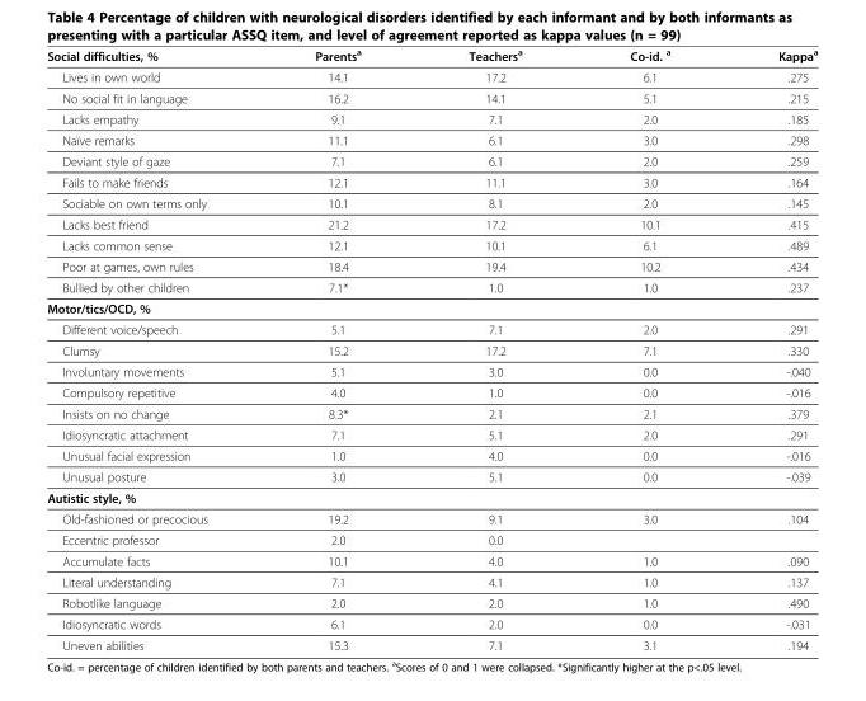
<table><thead><tr><td>Social difficulties, %</td><td>Parents<sup>a</sup></td><td>Teachers<sup>a</sup></td><td>Co-id. <sup>a</sup></td><td>Kappa<sup>a</sup></td></tr></thead><tbody><tr><td>Lives in own world</td><td>14.1</td><td>17.2</td><td>6.1</td><td>.275</td></tr><tr><td>No social fit in language</td><td>16.2</td><td>14.1</td><td>5.1</td><td>.215</td></tr><tr><td>Lacks empathy</td><td>9.1</td><td>7.1</td><td>2.0</td><td>.185</td></tr><tr><td>Naïve remarks</td><td>11.1</td><td>6.1</td><td>3.0</td><td>.298</td></tr><tr><td>Deviant style of gaze</td><td>7.1</td><td>6.1</td><td>2.0</td><td>.259</td></tr><tr><td>Fails to make friends</td><td>12.1</td><td>11.1</td><td>3.0</td><td>.164</td></tr><tr><td>Sociable on own terms only</td><td>10.1</td><td>8.1</td><td>2.0</td><td>.145</td></tr><tr><td>Lacks best friend</td><td>21.2</td><td>17.2</td><td>10.1</td><td>.415</td></tr><tr><td>Lacks common sense</td><td>12.1</td><td>10.1</td><td>6.1</td><td>.489</td></tr><tr><td>Poor at games, own rules</td><td>18.4</td><td>19.4</td><td>10.2</td><td>.434</td></tr><tr><td>Bullied by other children</td><td>7.1*</td><td>1.0</td><td>1.0</td><td>.237</td></tr><tr><td colspan="5">Motor/tics/OCD, %</td></tr><tr><td>Different voice/speech</td><td>5.1</td><td>7.1</td><td>2.0</td><td>.291</td></tr><tr><td>Clumsy</td><td>15.2</td><td>17.2</td><td>7.1</td><td>.330</td></tr><tr><td>Involuntary movements</td><td>5.1</td><td>3.0</td><td>0.0</td><td>-.040</td></tr><tr><td>Compulsory repetitive</td><td>4.0</td><td>1.0</td><td>0.0</td><td>-.016</td></tr><tr><td>Insists on no change</td><td>8.3*</td><td>2.1</td><td>2.1</td><td>.379</td></tr><tr><td>Idiosyncratic attachment</td><td>7.1</td><td>5.1</td><td>2.0</td><td>.291</td></tr><tr><td>Unusual facial expression</td><td>1.0</td><td>4.0</td><td>0.0</td><td>-.016</td></tr><tr><td>Unusual posture</td><td>3.0</td><td>5.1</td><td>0.0</td><td>-.039</td></tr><tr><td colspan="5">Autistic style, %</td></tr><tr><td>Old-fashioned or precocious</td><td>19.2</td><td>9.1</td><td>3.0</td><td>.104</td></tr><tr><td>Eccentric professor</td><td>2.0</td><td>0.0</td><td></td><td></td></tr><tr><td>Accumulate facts</td><td>10.1</td><td>4.0</td><td>1.0</td><td>.090</td></tr><tr><td>Literal understanding</td><td>7.1</td><td>4.1</td><td>1.0</td><td>.137</td></tr><tr><td>Robotlike language</td><td>2.0</td><td>2.0</td><td>1.0</td><td>.490</td></tr><tr><td>Idiosyncratic words</td><td>6.1</td><td>2.0</td><td>0.0</td><td>-.031</td></tr><tr><td>Uneven abilities</td><td>15.3</td><td>7.1</td><td>3.1</td><td>.194</td></tr></tbody></table>